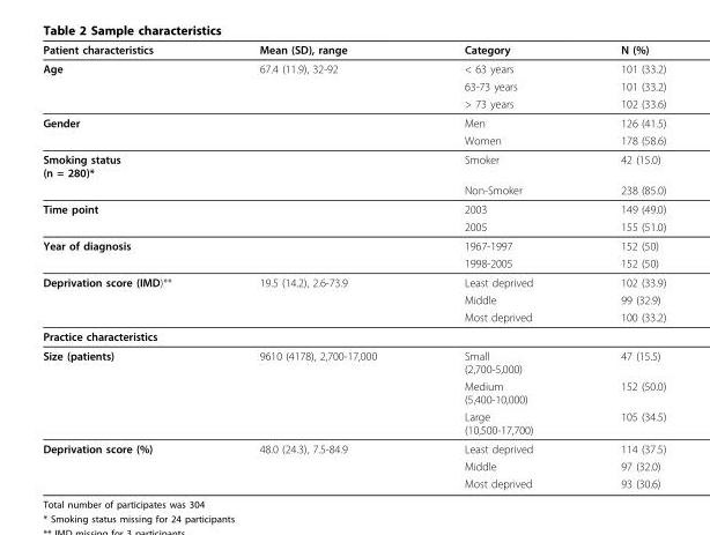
<table><thead><tr><td>Patient characteristics</td><td>Mean (SD), range</td><td>Category</td><td>N (%)</td></tr></thead><tbody><tr><td rowspan="3">Age</td><td>67.4 (11.9), 32-92</td><td>&lt; 63 years</td><td>101 (33.2)</td></tr><tr><td></td><td>63-73 years</td><td>101 (33.2)</td></tr><tr><td></td><td>&gt; 73 years</td><td>102 (33.6)</td></tr><tr><td rowspan="2">Gender</td><td></td><td>Men</td><td>126 (41.5)</td></tr><tr><td></td><td>Women</td><td>178 (58.6)</td></tr><tr><td rowspan="2">Smoking status (n = 280)*</td><td></td><td>Smoker</td><td>42 (15.0)</td></tr><tr><td></td><td>Non-Smoker</td><td>238 (85.0)</td></tr><tr><td rowspan="2">Time point</td><td></td><td>2003</td><td>149 (49.0)</td></tr><tr><td></td><td>2005</td><td>155 (51.0)</td></tr><tr><td rowspan="2">Year of diagnosis</td><td></td><td>1967-1997</td><td>152 (50)</td></tr><tr><td></td><td>1998-2005</td><td>152 (50)</td></tr><tr><td rowspan="3">Deprivation score (IMD)**</td><td>19.5 (14.2), 2.6-73.9</td><td>Least deprived</td><td>102 (33.9)</td></tr><tr><td></td><td>Middle</td><td>99 (32.9)</td></tr><tr><td></td><td>Most deprived</td><td>100 (33.2)</td></tr><tr><td colspan="4">Practice characteristics</td></tr><tr><td rowspan="3">Size (patients)</td><td>9610 (4178), 2,700-17,000</td><td>Small (2,700-5,000)</td><td>47 (15.5)</td></tr><tr><td></td><td>Medium (5,400-10,000)</td><td>152 (50.0)</td></tr><tr><td></td><td>Large (10,500-17,700)</td><td>105 (34.5)</td></tr><tr><td rowspan="3">Deprivation score (%)</td><td>48.0 (24.3), 7.5-84.9</td><td>Least deprived</td><td>114 (37.5)</td></tr><tr><td></td><td>Middle</td><td>97 (32.0)</td></tr><tr><td></td><td>Most deprived</td><td>93 (30.6)</td></tr></tbody></table>